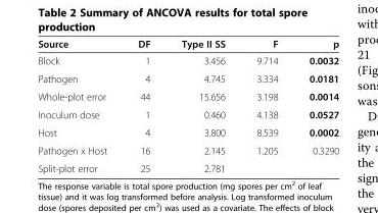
<table><thead><tr><td>Source</td><td>DF</td><td>Type II SS</td><td>F</td><td>p</td></tr></thead><tbody><tr><td>Block</td><td>1</td><td>3.456</td><td>9.714</td><td>0.0032</td></tr><tr><td>Pathogen</td><td>4</td><td>4.745</td><td>3.334</td><td>0.0181</td></tr><tr><td>Whole-plot error</td><td>44</td><td>15.656</td><td>3.198</td><td>0.0014</td></tr><tr><td>Inoculum dose</td><td>1</td><td>0.460</td><td>4.138</td><td>0.0527</td></tr><tr><td>Host</td><td>4</td><td>3.800</td><td>8.539</td><td>0.0002</td></tr><tr><td>Pathogen x Host</td><td>16</td><td>2.145</td><td>1.205</td><td>0.3290</td></tr><tr><td>Split-plot error</td><td>25</td><td>2.781</td><td></td><td></td></tr></tbody></table>